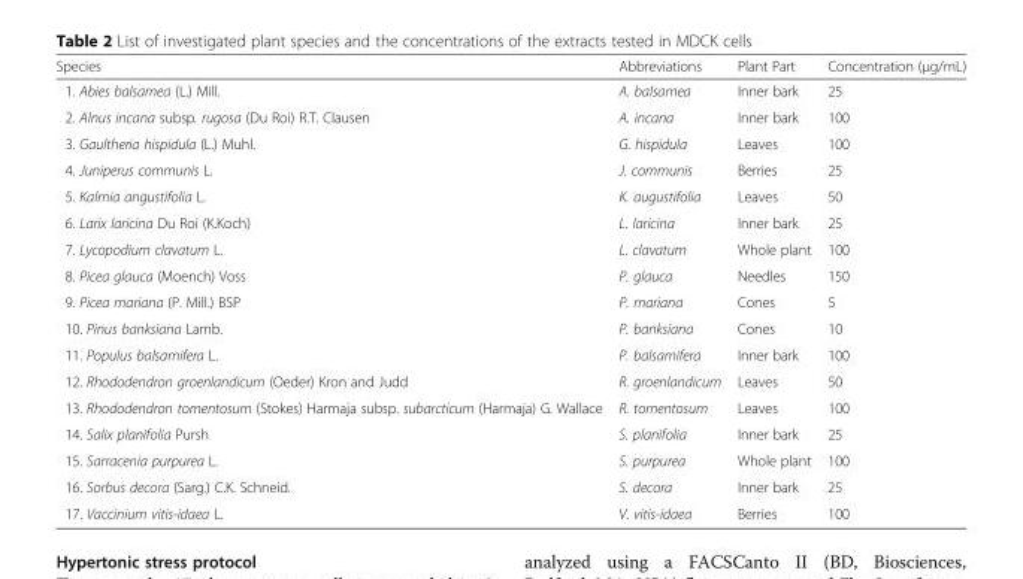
<table><thead><tr><td>Species</td><td>Abbreviations</td><td>Plant Part</td><td>Concentration (μg/mL)</td></tr></thead><tbody><tr><td>1. Abies balsamea (L.) Mill.</td><td>A. balsamea</td><td>Inner bark</td><td>25</td></tr><tr><td>2. Alnus incana subsp. rugosa (Du Roi) R.T. Clausen</td><td>A. incana</td><td>Inner bark</td><td>100</td></tr><tr><td>3. Gaultheria hispidula (L.) Muhl.</td><td>G. hispidula</td><td>Leaves</td><td>100</td></tr><tr><td>4. Juniperus communis L.</td><td>J. communis</td><td>Berries</td><td>25</td></tr><tr><td>5. Kalmia angustifolia L.</td><td>K. augustifolia</td><td>Leaves</td><td>50</td></tr><tr><td>6. Larix laricina Du Roi (K.Koch)</td><td>L. laricina</td><td>Inner bark</td><td>25</td></tr><tr><td>7. Lycopodium clavatum L.</td><td>L. clavatum</td><td>Whole plant</td><td>100</td></tr><tr><td>8. Picea glauca (Moench) Voss</td><td>P. glauca</td><td>Needles</td><td>150</td></tr><tr><td>9. Picea mariana (P. Mill.) BSP</td><td>P. mariana</td><td>Cones</td><td>5</td></tr><tr><td>10. Pinus banksiana Lamb.</td><td>P. banksiana</td><td>Cones</td><td>10</td></tr><tr><td>11. Populus balsamifera L.</td><td>P. balsamifera</td><td>Inner bark</td><td>100</td></tr><tr><td>12. Rhododendron groenlandicum (Oeder) Kron and Judd</td><td>R. groenlandicum</td><td>Leaves</td><td>50</td></tr><tr><td>13. Rhododendron tomentosum (Stokes) Harmaja subsp. subarcticum (Harmaja) G. Wallace</td><td>R. tomentosum</td><td>Leaves</td><td>100</td></tr><tr><td>14. Salix planifolia Pursh</td><td>S. planifolia</td><td>Inner bark</td><td>25</td></tr><tr><td>15. Sarracenia purpurea L.</td><td>S. purpurea</td><td>Whole plant</td><td>100</td></tr><tr><td>16. Sorbus decora (Sarg.) C.K. Schneid.</td><td>S. decora</td><td>Inner bark</td><td>25</td></tr><tr><td>17. Vaccinium vitis-idaea L.</td><td>V. vitis-idaea</td><td>Berries</td><td>100</td></tr></tbody></table>